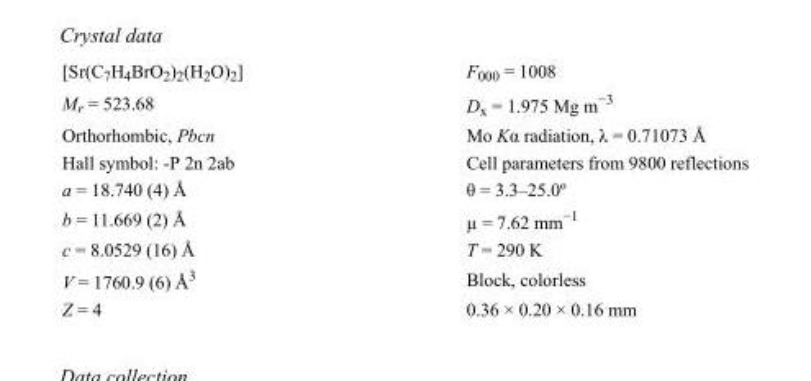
<table><tbody><tr><td>[Sr(C<sub>7</sub>H<sub>4</sub>BrO<sub>2</sub>)<sub>2</sub>(H<sub>2</sub>O)<sub>2</sub>]</td><td>F000 = 1008</td></tr><tr><td>M<sub>r</sub> = 523.68</td><td>D<sub>x</sub> = 1.975 Mg m<sup>−3</sup></td></tr><tr><td>Orthorhombic, Pbcn</td><td>Mo Kα radiation, λ = 0.71073 Å</td></tr><tr><td>Hall symbol: -P 2n 2ab</td><td>Cell parameters from 9800 reflections</td></tr><tr><td>a = 18.740 (4) Å</td><td>θ = 3.3–25.0º</td></tr><tr><td>b = 11.669 (2) Å</td><td>µ = 7.62 mm<sup>−1</sup></td></tr><tr><td>c = 8.0529 (16) Å</td><td>T = 290 K</td></tr><tr><td>V = 1760.9 (6) Å<sup>3</sup></td><td>Block, colorless</td></tr><tr><td>Z = 4</td><td>0.36 × 0.20 × 0.16 mm</td></tr></tbody></table>